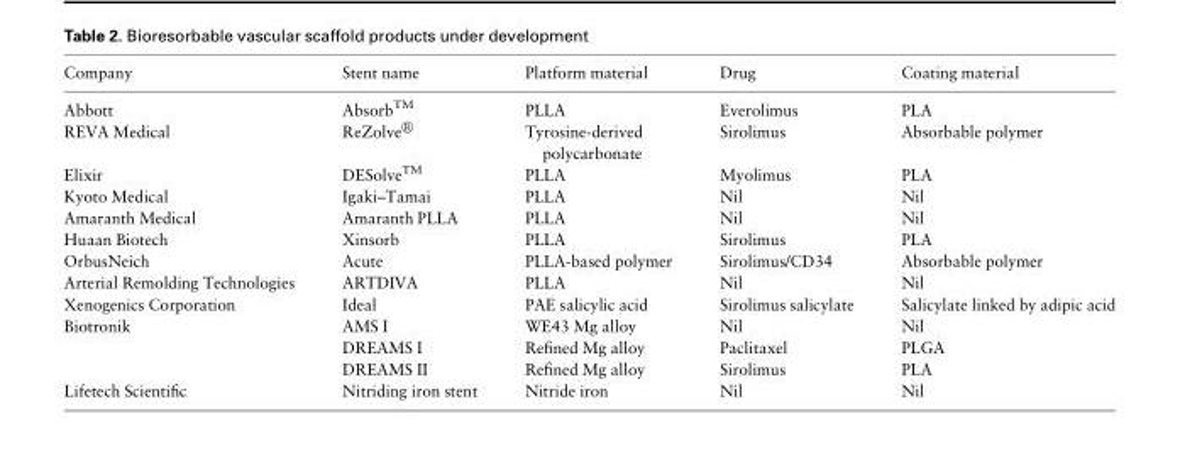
<table><thead><tr><td>Company</td><td>Stent name</td><td>Platform material</td><td>Drug</td><td>Coating material</td></tr></thead><tbody><tr><td>Abbott</td><td>AbsorbTM</td><td>PLLA</td><td>Everolimus</td><td>PLA</td></tr><tr><td>REVA Medical</td><td>ReZolveV R</td><td>Tyrosine-derived polycarbonate</td><td>Sirolimus</td><td>Absorbable polymer</td></tr><tr><td>Elixir</td><td>DESolveTM</td><td>PLLA</td><td>Myolimus</td><td>PLA</td></tr><tr><td>Kyoto Medical</td><td>Igaki–Tamai</td><td>PLLA</td><td>Nil</td><td>Nil</td></tr><tr><td>Amaranth Medical</td><td>Amaranth PLLA</td><td>PLLA</td><td>Nil</td><td>Nil</td></tr><tr><td>Huaan Biotech</td><td>Xinsorb</td><td>PLLA</td><td>Sirolimus</td><td>PLA</td></tr><tr><td>OrbusNeich</td><td>Acute</td><td>PLLA-based polymer</td><td>Sirolimus/CD34</td><td>Absorbable polymer</td></tr><tr><td>Arterial Remolding Technologies</td><td>ARTDIVA</td><td>PLLA</td><td>Nil</td><td>Nil</td></tr><tr><td>Xenogenics Corporation</td><td>Ideal</td><td>PAE salicylic acid</td><td>Sirolimus salicylate</td><td>Salicylate linked by adipic acid</td></tr><tr><td rowspan="3">Biotronik</td><td>AMS I</td><td>WE43 Mg alloy</td><td>Nil</td><td>Nil</td></tr><tr><td>DREAMS I</td><td>Refined Mg alloy</td><td>Paclitaxel</td><td>PLGA</td></tr><tr><td>DREAMS II</td><td>Refined Mg alloy</td><td>Sirolimus</td><td>PLA</td></tr><tr><td>Lifetech Scientific</td><td>Nitriding iron stent</td><td>Nitride iron</td><td>Nil</td><td>Nil</td></tr></tbody></table>